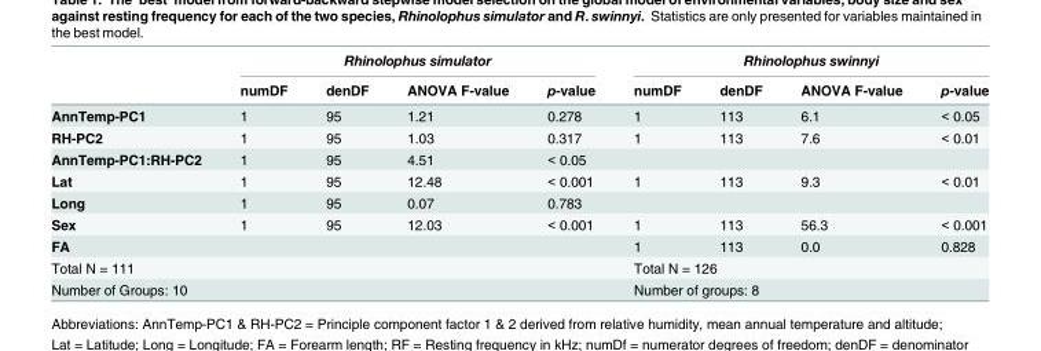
<table><thead><tr><td rowspan="2"></td><td colspan="4">Rhinolophus simulator</td><td colspan="4">Rhinolophus swinnyi</td></tr><tr><td>numDF</td><td>denDF</td><td>ANOVA F-value</td><td>p-value</td><td>numDF</td><td>denDF</td><td>ANOVA F-value</td><td>p-value</td></tr></thead><tbody><tr><td>AnnTemp-PC1</td><td>1</td><td>95</td><td>1.21</td><td>0.278</td><td>1</td><td>113</td><td>6.1</td><td>&lt; 0.05</td></tr><tr><td>RH-PC2</td><td>1</td><td>95</td><td>1.03</td><td>0.317</td><td>1</td><td>113</td><td>7.6</td><td>&lt; 0.01</td></tr><tr><td>AnnTemp-PC1:RH-PC2</td><td>1</td><td>95</td><td>4.51</td><td>&lt; 0.05</td><td></td><td></td><td></td><td></td></tr><tr><td>Lat</td><td>1</td><td>95</td><td>12.48</td><td>&lt; 0.001</td><td>1</td><td>113</td><td>9.3</td><td>&lt; 0.01</td></tr><tr><td>Long</td><td>1</td><td>95</td><td>0.07</td><td>0.783</td><td></td><td></td><td></td><td></td></tr><tr><td>Sex</td><td>1</td><td>95</td><td>12.03</td><td>&lt; 0.001</td><td>1</td><td>113</td><td>56.3</td><td>&lt; 0.001</td></tr><tr><td>FA</td><td></td><td></td><td></td><td></td><td>1</td><td>113</td><td>0.0</td><td>0.828</td></tr><tr><td colspan="2">Total N = 111</td><td></td><td></td><td></td><td colspan="2">Total N = 126</td><td></td><td></td></tr><tr><td colspan="3">Number of Groups: 10</td><td></td><td></td><td colspan="3">Number of groups: 8</td><td></td></tr></tbody></table>